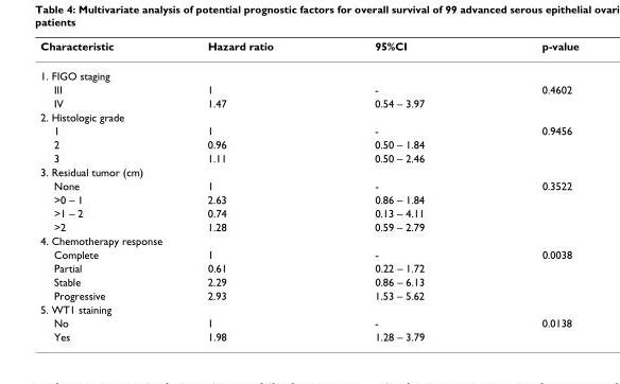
<table><thead><tr><td>Characteristic</td><td>Hazard ratio</td><td>95%CI</td><td>p-value</td></tr></thead><tbody><tr><td colspan="4">1. FIGO staging</td></tr><tr><td>III</td><td>1</td><td>-</td><td>0.4602</td></tr><tr><td>IV</td><td>1.47</td><td>0.54 – 3.97</td><td></td></tr><tr><td colspan="4">2. Histologic grade</td></tr><tr><td>1</td><td>1</td><td>-</td><td>0.9456</td></tr><tr><td>2</td><td>0.96</td><td>0.50 – 1.84</td><td></td></tr><tr><td>3</td><td>1.11</td><td>0.50 – 2.46</td><td></td></tr><tr><td colspan="4">3. Residual tumor (cm)</td></tr><tr><td>None</td><td>1</td><td>-</td><td>0.3522</td></tr><tr><td>&gt;0 – 1</td><td>2.63</td><td>0.86 – 1.84</td><td></td></tr><tr><td>&gt;1 – 2</td><td>0.74</td><td>0.13 – 4.11</td><td></td></tr><tr><td>&gt;2</td><td>1.28</td><td>0.59 – 2.79</td><td></td></tr><tr><td colspan="4">4. Chemotherapy response</td></tr><tr><td>Complete</td><td>1</td><td>-</td><td>0.0038</td></tr><tr><td>Partial</td><td>0.61</td><td>0.22 – 1.72</td><td></td></tr><tr><td>Stable</td><td>2.29</td><td>0.86 – 6.13</td><td></td></tr><tr><td>Progressive</td><td>2.93</td><td>1.53 – 5.62</td><td></td></tr><tr><td colspan="4">5. WT1 staining</td></tr><tr><td>No</td><td>1</td><td>-</td><td>0.0138</td></tr><tr><td>Yes</td><td>1.98</td><td>1.28 – 3.79</td><td></td></tr></tbody></table>